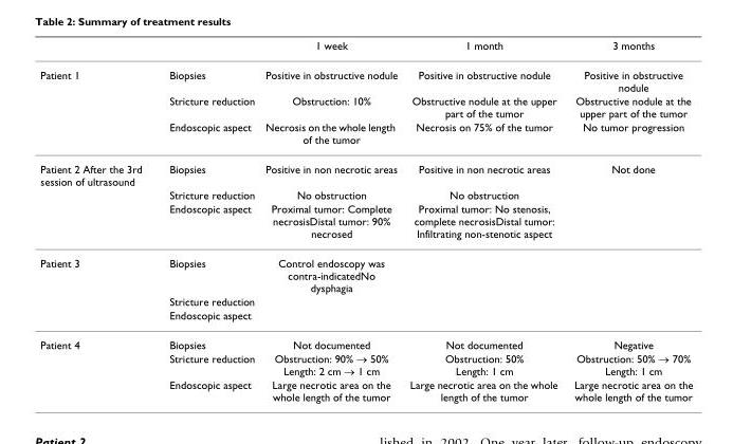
<table><thead><tr><td></td><td></td><td>1 week</td><td>1 month</td><td>3 months</td></tr></thead><tbody><tr><td rowspan="3">Patient 1</td><td>Biopsies</td><td>Positive in obstructive nodule</td><td>Positive in obstructive nodule</td><td>Positive in obstructive nodule</td></tr><tr><td>Stricture reduction</td><td>Obstruction: 10%</td><td>Obstructive nodule at the upper part of the tumor</td><td>Obstructive nodule at the upper part of the tumor</td></tr><tr><td>Endoscopic aspect</td><td>Necrosis on the whole length of the tumor</td><td>Necrosis on 75% of the tumor</td><td>No tumor progression</td></tr><tr><td rowspan="3">Patient 2 After the 3rd session of ultrasound</td><td>Biopsies</td><td>Positive in non necrotic areas</td><td>Positive in non necrotic areas</td><td>Not done</td></tr><tr><td>Stricture reduction</td><td>No obstruction</td><td>No obstruction</td><td></td></tr><tr><td>Endoscopic aspect</td><td>Proximal tumor: Complete necrosisDistal tumor: 90% necrosed</td><td>Proximal tumor: No stenosis, complete necrosisDistal tumor: Infiltrating non-stenotic aspect</td><td></td></tr><tr><td rowspan="3">Patient 3</td><td>Biopsies</td><td>Control endoscopy was contra-indicatedNo dysphagia</td><td></td><td></td></tr><tr><td>Stricture reduction</td><td></td><td></td><td></td></tr><tr><td>Endoscopic aspect</td><td></td><td></td><td></td></tr><tr><td rowspan="3">Patient 4</td><td>Biopsies</td><td>Not documented</td><td>Not documented</td><td>Negative</td></tr><tr><td>Stricture reduction</td><td>Obstruction: 90% → 50% Length: 2 cm → 1 cm</td><td>Obstruction: 50% Length: 1 cm</td><td>Obstruction: 50% → 70% Length: 1 cm</td></tr><tr><td>Endoscopic aspect</td><td>Large necrotic area on the whole length of the tumor</td><td>Large necrotic area on the whole length of the tumor</td><td>Large necrotic area on the whole length of the tumor</td></tr></tbody></table>